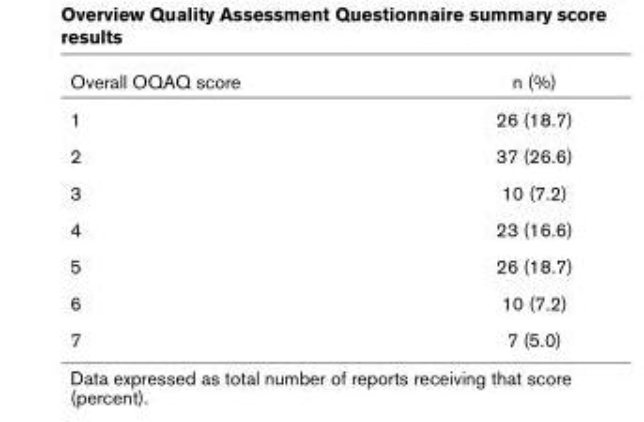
<table><thead><tr><td>Overall OQAQ score</td><td>n (%)</td></tr></thead><tbody><tr><td>1</td><td>26 (18.7)</td></tr><tr><td>2</td><td>37 (26.6)</td></tr><tr><td>3</td><td>10 (7.2)</td></tr><tr><td>4</td><td>23 (16.6)</td></tr><tr><td>5</td><td>26 (18.7)</td></tr><tr><td>6</td><td>10 (7.2)</td></tr><tr><td>7</td><td>7 (5.0)</td></tr></tbody></table>